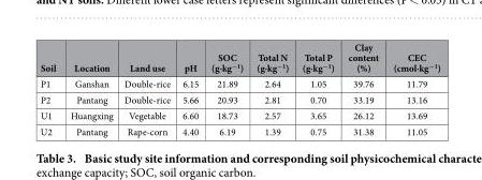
<table><thead><tr><td>Soil</td><td>Location</td><td>Land use</td><td>pH</td><td>SOC (g·kg<sup>−1</sup>)</td><td>Total N (g·kg<sup>−1</sup>)</td><td>Total P (g·kg<sup>−1</sup>)</td><td>Clay content (%)</td><td>CEC (cmol·kg<sup>−1</sup>)</td></tr></thead><tbody><tr><td>P1</td><td>Ganshan</td><td>Double-rice</td><td>6.15</td><td>21.89</td><td>2.64</td><td>1.05</td><td>39.76</td><td>11.79</td></tr><tr><td>P2</td><td>Pantang</td><td>Double-rice</td><td>5.66</td><td>20.93</td><td>2.81</td><td>0.70</td><td>33.19</td><td>13.16</td></tr><tr><td>U1</td><td>Huangxing</td><td>Vegetable</td><td>6.60</td><td>18.73</td><td>2.57</td><td>3.65</td><td>26.12</td><td>13.69</td></tr><tr><td>U2</td><td>Pantang</td><td>Rape-corn</td><td>4.40</td><td>6.19</td><td>1.39</td><td>0.75</td><td>31.38</td><td>11.05</td></tr></tbody></table>